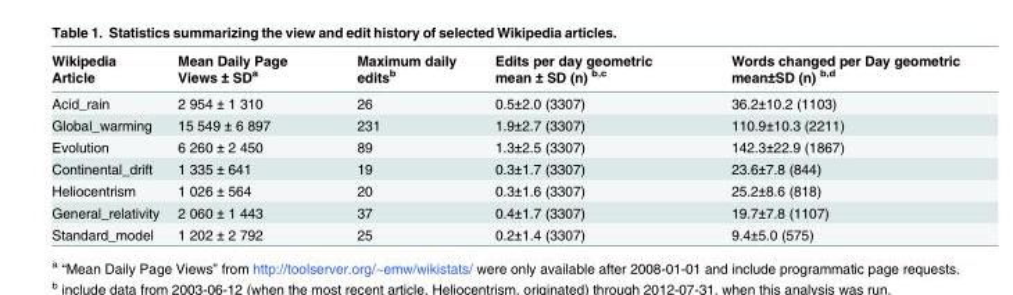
<table><thead><tr><td>Wikipedia Article</td><td>Mean Daily Page Views ± SD<sup>a</sup></td><td>Maximum daily edits<sup>b</sup></td><td>Edits per day geometric mean ± SD (n) <sup>b,c</sup></td><td>Words changed per Day geometric mean±SD (n) <sup>b,d</sup></td></tr></thead><tbody><tr><td>Acid_rain</td><td>2 954 ± 1 310</td><td>26</td><td>0.5±2.0 (3307)</td><td>36.2±10.2 (1103)</td></tr><tr><td>Global_warming</td><td>15 549 ± 6 897</td><td>231</td><td>1.9±2.7 (3307)</td><td>110.9±10.3 (2211)</td></tr><tr><td>Evolution</td><td>6 260 ± 2 450</td><td>89</td><td>1.3±2.5 (3307)</td><td>142.3±22.9 (1867)</td></tr><tr><td>Continental_drift</td><td>1 335 ± 641</td><td>19</td><td>0.3±1.7 (3307)</td><td>23.6±7.8 (844)</td></tr><tr><td>Heliocentrism</td><td>1 026 ± 564</td><td>20</td><td>0.3±1.6 (3307)</td><td>25.2±8.6 (818)</td></tr><tr><td>General_relativity</td><td>2 060 ± 1 443</td><td>37</td><td>0.4±1.7 (3307)</td><td>19.7±7.8 (1107)</td></tr><tr><td>Standard_model</td><td>1 202 ± 2 792</td><td>25</td><td>0.2±1.4 (3307)</td><td>9.4±5.0 (575)</td></tr></tbody></table>